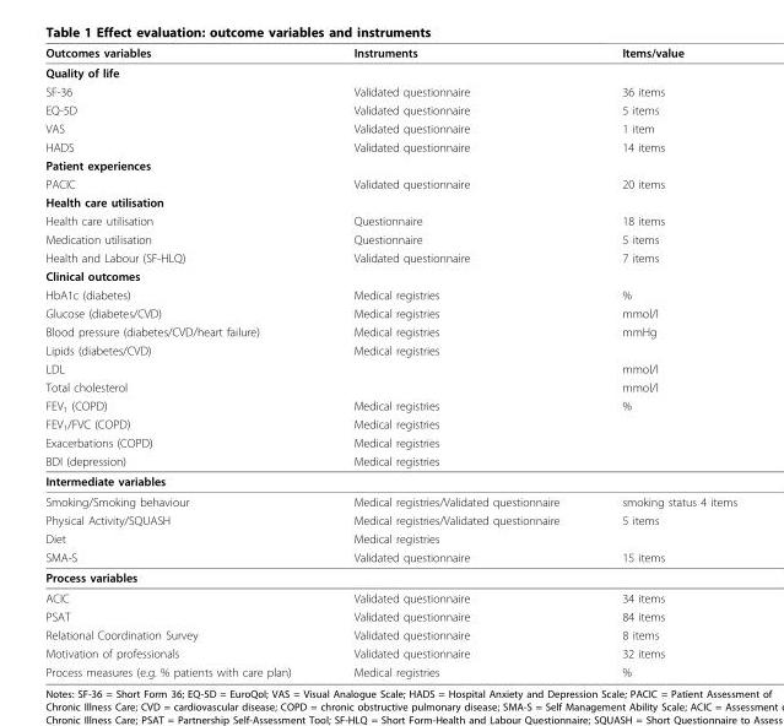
<table><thead><tr><td>Outcomes variables</td><td>Instruments</td><td>Items/value</td></tr></thead><tbody><tr><td colspan="3">Quality of life</td></tr><tr><td>SF-36</td><td>Validated questionnaire</td><td>36 items</td></tr><tr><td>EQ-5D</td><td>Validated questionnaire</td><td>5 items</td></tr><tr><td>VAS</td><td>Validated questionnaire</td><td>1 item</td></tr><tr><td>HADS</td><td>Validated questionnaire</td><td>14 items</td></tr><tr><td colspan="3">Patient experiences</td></tr><tr><td>PACIC</td><td>Validated questionnaire</td><td>20 items</td></tr><tr><td colspan="3">Health care utilisation</td></tr><tr><td>Health care utilisation</td><td>Questionnaire</td><td>18 items</td></tr><tr><td>Medication utilisation</td><td>Questionnaire</td><td>5 items</td></tr><tr><td>Health and Labour (SF-HLQ)</td><td>Validated questionnaire</td><td>7 items</td></tr><tr><td colspan="3">Clinical outcomes</td></tr><tr><td>HbA1c (diabetes)</td><td>Medical registries</td><td>%</td></tr><tr><td>Glucose (diabetes/CVD)</td><td>Medical registries</td><td>mmol/l</td></tr><tr><td>Blood pressure (diabetes/CVD/heart failure)</td><td>Medical registries</td><td>mmHg</td></tr><tr><td>Lipids (diabetes/CVD)</td><td>Medical registries</td><td></td></tr><tr><td>LDL</td><td></td><td>mmol/l</td></tr><tr><td>Total cholesterol</td><td></td><td>mmol/l</td></tr><tr><td>FEV<sub>1</sub> (COPD)</td><td>Medical registries</td><td>%</td></tr><tr><td>FEV<sub>1</sub>/FVC (COPD)</td><td>Medical registries</td><td></td></tr><tr><td>Exacerbations (COPD)</td><td>Medical registries</td><td></td></tr><tr><td>BDI (depression)</td><td>Medical registries</td><td></td></tr><tr><td colspan="3">Intermediate variables</td></tr><tr><td>Smoking/Smoking behaviour</td><td>Medical registries/Validated questionnaire</td><td>smoking status 4 items</td></tr><tr><td>Physical Activity/SQUASH</td><td>Medical registries/Validated questionnaire</td><td>5 items</td></tr><tr><td>Diet</td><td>Medical registries</td><td></td></tr><tr><td>SMA-S</td><td>Validated questionnaire</td><td>15 items</td></tr><tr><td colspan="3">Process variables</td></tr><tr><td>ACIC</td><td>Validated questionnaire</td><td>34 items</td></tr><tr><td>PSAT</td><td>Validated questionnaire</td><td>84 items</td></tr><tr><td>Relational Coordination Survey</td><td>Validated questionnaire</td><td>8 items</td></tr><tr><td>Motivation of professionals</td><td>Validated questionnaire</td><td>32 items</td></tr><tr><td>Process measures (e.g. % patients with care plan)</td><td>Medical registries</td><td>%</td></tr></tbody></table>